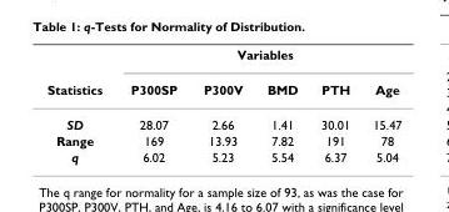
<table><thead><tr><td rowspan="2">Statistics</td><td colspan="5">Variables</td></tr><tr><td>P300SP</td><td>P300V</td><td>BMD</td><td>PTH</td><td>Age</td></tr></thead><tbody><tr><td>SD</td><td>28.07</td><td>2.66</td><td>1.41</td><td>30.01</td><td>15.47</td></tr><tr><td>Range</td><td>169</td><td>13.93</td><td>7.82</td><td>191</td><td>78</td></tr><tr><td>q</td><td>6.02</td><td>5.23</td><td>5.54</td><td>6.37</td><td>5.04</td></tr></tbody></table>